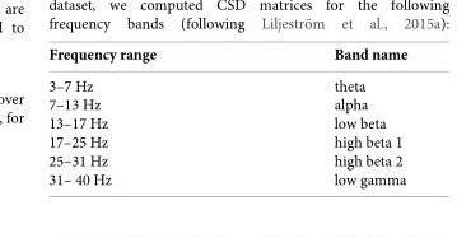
<table><thead><tr><td>Frequency range</td><td>Band name</td></tr></thead><tbody><tr><td>3–7 Hz</td><td>theta</td></tr><tr><td>7–13 Hz</td><td>alpha</td></tr><tr><td>13–17 Hz</td><td>low beta</td></tr><tr><td>17–25 Hz</td><td>high beta 1</td></tr><tr><td>25–31 Hz</td><td>high beta 2</td></tr><tr><td>31– 40 Hz</td><td>low gamma</td></tr></tbody></table>